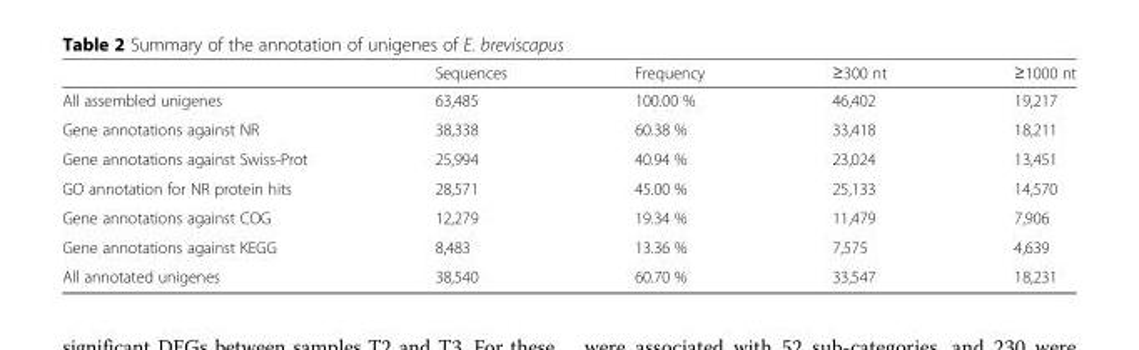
<table><thead><tr><td></td><td>Sequences</td><td>Frequency</td><td>≥300 nt</td><td>≥1000 nt</td></tr></thead><tbody><tr><td>All assembled unigenes</td><td>63,485</td><td>100.00 %</td><td>46,402</td><td>19,217</td></tr><tr><td>Gene annotations against NR</td><td>38,338</td><td>60.38 %</td><td>33,418</td><td>18,211</td></tr><tr><td>Gene annotations against Swiss-Prot</td><td>25,994</td><td>40.94 %</td><td>23,024</td><td>13,451</td></tr><tr><td>GO annotation for NR protein hits</td><td>28,571</td><td>45.00 %</td><td>25,133</td><td>14,570</td></tr><tr><td>Gene annotations against COG</td><td>12,279</td><td>19.34 %</td><td>11,479</td><td>7,906</td></tr><tr><td>Gene annotations against KEGG</td><td>8,483</td><td>13.36 %</td><td>7,575</td><td>4,639</td></tr><tr><td>All annotated unigenes</td><td>38,540</td><td>60.70 %</td><td>33,547</td><td>18,231</td></tr></tbody></table>